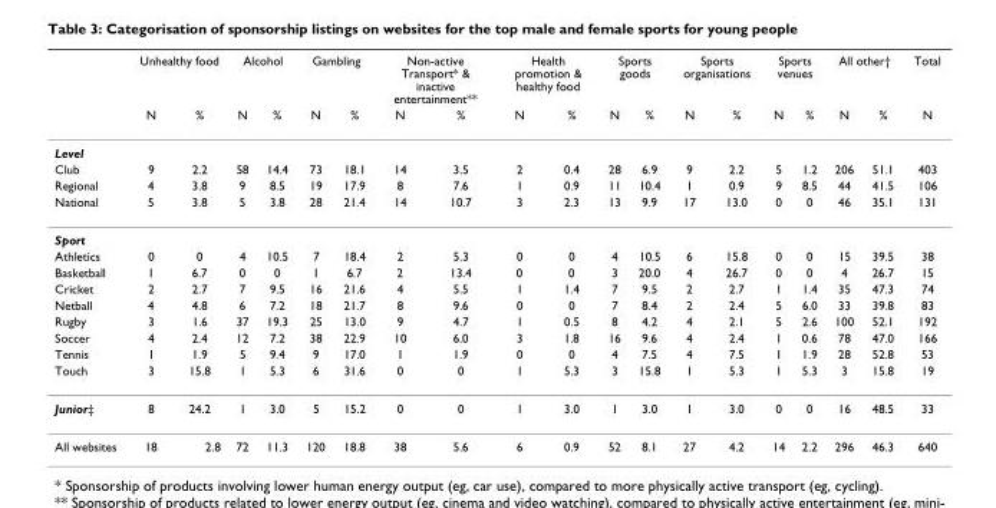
<table><thead><tr><td rowspan="2"></td><td colspan="2">Unhealthy food</td><td colspan="2">Alcohol</td><td colspan="2">Gambling</td><td colspan="2">Non-active Transport* &amp; inactive entertainment**</td><td colspan="2">Health promotion &amp; healthy food</td><td colspan="2">Sports goods</td><td colspan="2">Sports organisations</td><td colspan="2">Sports venues</td><td colspan="2">All other†</td><td rowspan="2">Total N</td></tr><tr><td>N</td><td>%</td><td>N</td><td>%</td><td>N</td><td>%</td><td>N</td><td>%</td><td>N</td><td>%</td><td>N</td><td>%</td><td>N</td><td>%</td><td>N</td><td>%</td><td>N</td><td>%</td></tr></thead><tbody><tr><td colspan="20">Level</td></tr><tr><td>Club</td><td>9</td><td>2.2</td><td>58</td><td>14.4</td><td>73</td><td>18.1</td><td>14</td><td>3.5</td><td>2</td><td>0.4</td><td>28</td><td>6.9</td><td>9</td><td>2.2</td><td>5</td><td>1.2</td><td>206</td><td>51.1</td><td>403</td></tr><tr><td>Regional</td><td>4</td><td>3.8</td><td>9</td><td>8.5</td><td>19</td><td>17.9</td><td>8</td><td>7.6</td><td>1</td><td>0.9</td><td>11</td><td>10.4</td><td>1</td><td>0.9</td><td>9</td><td>8.5</td><td>44</td><td>41.5</td><td>106</td></tr><tr><td>National</td><td>5</td><td>3.8</td><td>5</td><td>3.8</td><td>28</td><td>21.4</td><td>14</td><td>10.7</td><td>3</td><td>2.3</td><td>13</td><td>9.9</td><td>17</td><td>13.0</td><td>0</td><td>0</td><td>46</td><td>35.1</td><td>131</td></tr><tr><td colspan="20">Sport</td></tr><tr><td>Athletics</td><td>0</td><td>0</td><td>4</td><td>10.5</td><td>7</td><td>18.4</td><td>2</td><td>5.3</td><td>0</td><td>0</td><td>4</td><td>10.5</td><td>6</td><td>15.8</td><td>0</td><td>0</td><td>15</td><td>39.5</td><td>38</td></tr><tr><td>Basketball</td><td>1</td><td>6.7</td><td>0</td><td>0</td><td>1</td><td>6.7</td><td>2</td><td>13.4</td><td>0</td><td>0</td><td>3</td><td>20.0</td><td>4</td><td>26.7</td><td>0</td><td>0</td><td>4</td><td>26.7</td><td>15</td></tr><tr><td>Cricket</td><td>2</td><td>2.7</td><td>7</td><td>9.5</td><td>16</td><td>21.6</td><td>4</td><td>5.5</td><td>1</td><td>1.4</td><td>7</td><td>9.5</td><td>2</td><td>2.7</td><td>1</td><td>1.4</td><td>35</td><td>47.3</td><td>74</td></tr><tr><td>Netball</td><td>4</td><td>4.8</td><td>6</td><td>7.2</td><td>18</td><td>21.7</td><td>8</td><td>9.6</td><td>0</td><td>0</td><td>7</td><td>8.4</td><td>2</td><td>2.4</td><td>5</td><td>6.0</td><td>33</td><td>39.8</td><td>83</td></tr><tr><td>Rugby</td><td>3</td><td>1.6</td><td>37</td><td>19.3</td><td>25</td><td>13.0</td><td>9</td><td>4.7</td><td>1</td><td>0.5</td><td>8</td><td>4.2</td><td>4</td><td>2.1</td><td>5</td><td>2.6</td><td>100</td><td>52.1</td><td>192</td></tr><tr><td>Soccer</td><td>4</td><td>2.4</td><td>12</td><td>7.2</td><td>38</td><td>22.9</td><td>10</td><td>6.0</td><td>3</td><td>1.8</td><td>16</td><td>9.6</td><td>4</td><td>2.4</td><td>1</td><td>0.6</td><td>78</td><td>47.0</td><td>166</td></tr><tr><td>Tennis</td><td>1</td><td>1.9</td><td>5</td><td>9.4</td><td>9</td><td>17.0</td><td>1</td><td>1.9</td><td>0</td><td>0</td><td>4</td><td>7.5</td><td>4</td><td>7.5</td><td>1</td><td>1.9</td><td>28</td><td>52.8</td><td>53</td></tr><tr><td>Touch</td><td>3</td><td>15.8</td><td>1</td><td>5.3</td><td>6</td><td>31.6</td><td>0</td><td>0</td><td>1</td><td>5.3</td><td>3</td><td>15.8</td><td>1</td><td>5.3</td><td>1</td><td>5.3</td><td>3</td><td>15.8</td><td>19</td></tr><tr><td>Junior‡</td><td>8</td><td>24.2</td><td>1</td><td>3.0</td><td>5</td><td>15.2</td><td>0</td><td>0</td><td>1</td><td>3.0</td><td>1</td><td>3.0</td><td>1</td><td>3.0</td><td>0</td><td>0</td><td>16</td><td>48.5</td><td>33</td></tr><tr><td>All websites</td><td>18</td><td>2.8</td><td>72</td><td>11.3</td><td>120</td><td>18.8</td><td>38</td><td>5.6</td><td>6</td><td>0.9</td><td>52</td><td>8.1</td><td>27</td><td>4.2</td><td>14</td><td>2.2</td><td>296</td><td>46.3</td><td>640</td></tr></tbody></table>